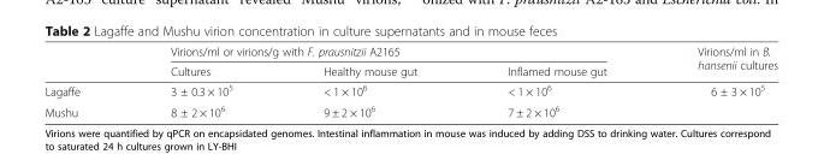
<table><thead><tr><td rowspan="2"></td><td colspan="3">Virions/ml or virions/g with F. prausnitzii A2165</td><td rowspan="2">Virions/ml in B. hansenii cultures</td></tr><tr><td>Cultures</td><td>Healthy mouse gut</td><td>Inflamed mouse gut</td></tr></thead><tbody><tr><td>Lagaffe</td><td>3 ± 0.3 × 10<sup>5</sup></td><td>&lt; 1 × 10<sup>6</sup></td><td>&lt; 1 × 10<sup>6</sup></td><td>6 ± 3 × 10<sup>5</sup></td></tr><tr><td>Mushu</td><td>8 ± 2 × 10<sup>6</sup></td><td>9 ± 2 × 10<sup>6</sup></td><td>7 ± 2 × 10<sup>6</sup></td><td></td></tr></tbody></table>